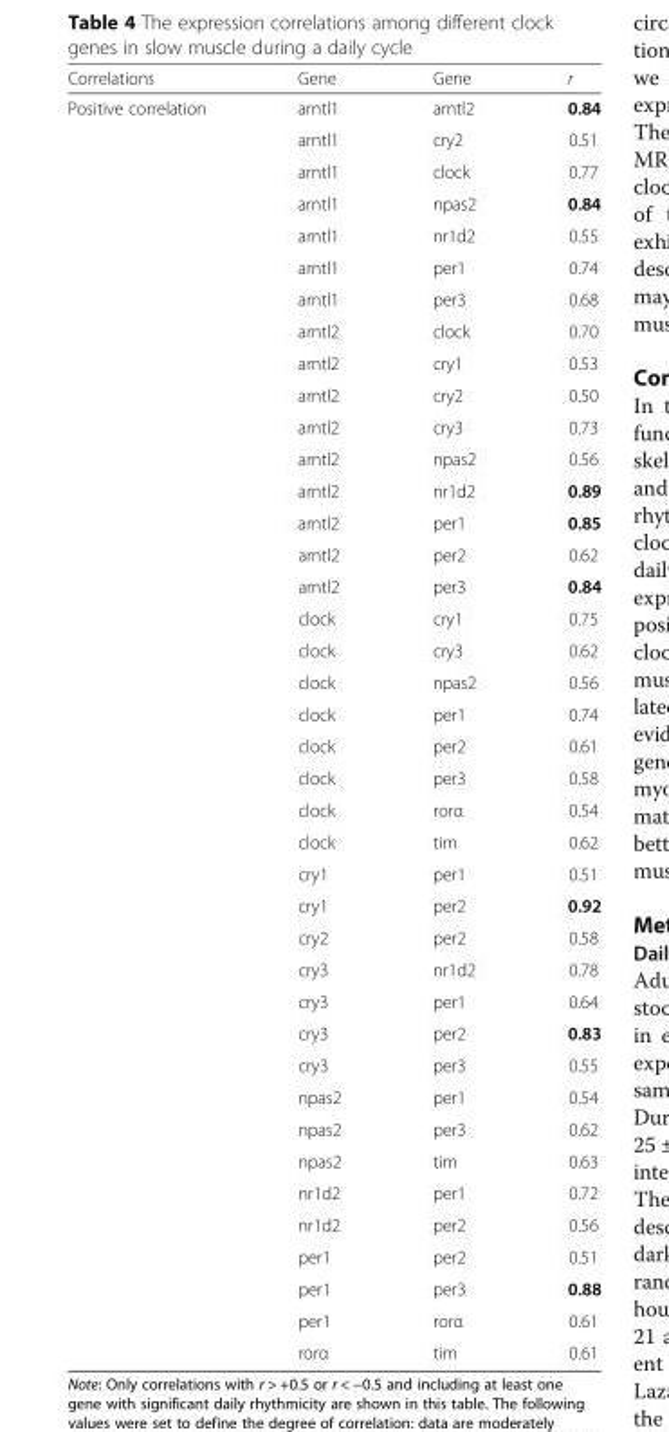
<table><thead><tr><td>Correlations</td><td>Gene</td><td>Gene</td><td>r</td></tr></thead><tbody><tr><td rowspan="40">Positive correlation</td><td>arntl1</td><td>arntl2</td><td>0.84</td></tr><tr><td>arntl1</td><td>cry2</td><td>0.51</td></tr><tr><td>arntl1</td><td>clock</td><td>0.77</td></tr><tr><td>arntl1</td><td>npas2</td><td>0.84</td></tr><tr><td>arntl1</td><td>nr1d2</td><td>0.55</td></tr><tr><td>arntl1</td><td>per1</td><td>0.74</td></tr><tr><td>arntl1</td><td>per3</td><td>0.68</td></tr><tr><td>arntl2</td><td>clock</td><td>0.70</td></tr><tr><td>arntl2</td><td>cry1</td><td>0.53</td></tr><tr><td>arntl2</td><td>cry2</td><td>0.50</td></tr><tr><td>arntl2</td><td>cry3</td><td>0.73</td></tr><tr><td>arntl2</td><td>npas2</td><td>0.56</td></tr><tr><td>arntl2</td><td>nr1d2</td><td>0.89</td></tr><tr><td>arntl2</td><td>per1</td><td>0.85</td></tr><tr><td>arntl2</td><td>per2</td><td>0.62</td></tr><tr><td>arntl2</td><td>per3</td><td>0.84</td></tr><tr><td>clock</td><td>cry1</td><td>0.75</td></tr><tr><td>clock</td><td>cry3</td><td>0.62</td></tr><tr><td>clock</td><td>npas2</td><td>0.56</td></tr><tr><td>clock</td><td>per1</td><td>0.74</td></tr><tr><td>clock</td><td>per2</td><td>0.61</td></tr><tr><td>clock</td><td>per3</td><td>0.58</td></tr><tr><td>clock</td><td>rorα</td><td>0.54</td></tr><tr><td>clock</td><td>tim</td><td>0.62</td></tr><tr><td>cry1</td><td>per1</td><td>0.51</td></tr><tr><td>cry1</td><td>per2</td><td>0.92</td></tr><tr><td>cry2</td><td>per2</td><td>0.58</td></tr><tr><td>cry3</td><td>nr1d2</td><td>0.78</td></tr><tr><td>cry3</td><td>per1</td><td>0.64</td></tr><tr><td>cry3</td><td>per2</td><td>0.83</td></tr><tr><td>cry3</td><td>per3</td><td>0.55</td></tr><tr><td>npas2</td><td>per1</td><td>0.54</td></tr><tr><td>npas2</td><td>per3</td><td>0.62</td></tr><tr><td>npas2</td><td>tim</td><td>0.63</td></tr><tr><td>nr1d2</td><td>per1</td><td>0.72</td></tr><tr><td>nr1d2</td><td>per2</td><td>0.56</td></tr><tr><td>per1</td><td>per2</td><td>0.51</td></tr><tr><td>per1</td><td>per3</td><td>0.88</td></tr><tr><td>per1</td><td>rorα</td><td>0.61</td></tr><tr><td>rorα</td><td>tim</td><td>0.61</td></tr></tbody></table>